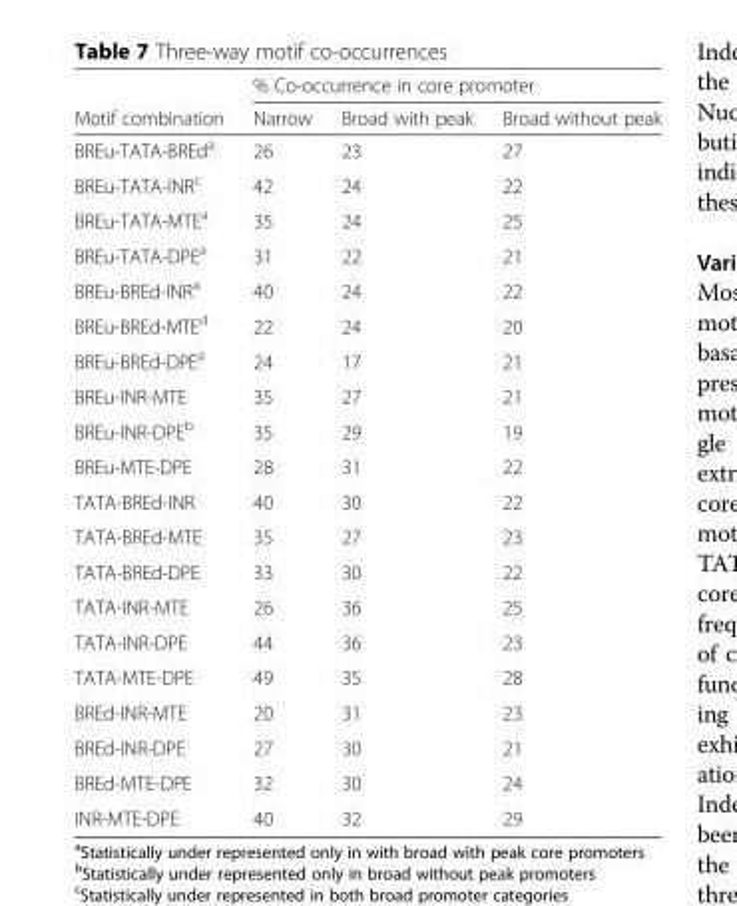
<table><thead><tr><td rowspan="2">Motif combination</td><td colspan="3">% Co-occurrence in core promoter</td></tr><tr><td>Narrow</td><td>Broad with peak</td><td>Broad without peak</td></tr></thead><tbody><tr><td>BREu-TATA-BREd<sup>a</sup></td><td>26</td><td>23</td><td>27</td></tr><tr><td>BREu-TATA-INR<sup>c</sup></td><td>42</td><td>24</td><td>22</td></tr><tr><td>BREu-TATA-MTE<sup>a</sup></td><td>35</td><td>24</td><td>25</td></tr><tr><td>BREu-TATA-DPE<sup>a</sup></td><td>31</td><td>22</td><td>21</td></tr><tr><td>BREu-BREd-INR<sup>a</sup></td><td>40</td><td>24</td><td>22</td></tr><tr><td>BREu-BREd-MTE<sup>d</sup></td><td>22</td><td>24</td><td>20</td></tr><tr><td>BREu-BREd-DPE<sup>a</sup></td><td>24</td><td>17</td><td>21</td></tr><tr><td>BREu-INR-MTE</td><td>35</td><td>27</td><td>21</td></tr><tr><td>BREu-INR-DPE<sup>b</sup></td><td>35</td><td>29</td><td>19</td></tr><tr><td>BREu-MTE-DPE</td><td>28</td><td>31</td><td>22</td></tr><tr><td>TATA-BREd-INR</td><td>40</td><td>30</td><td>22</td></tr><tr><td>TATA-BREd-MTE</td><td>35</td><td>27</td><td>23</td></tr><tr><td>TATA-BREd-DPE</td><td>33</td><td>30</td><td>22</td></tr><tr><td>TATA-INR-MTE</td><td>26</td><td>36</td><td>25</td></tr><tr><td>TATA-INR-DPE</td><td>44</td><td>36</td><td>23</td></tr><tr><td>TATA-MTE-DPE</td><td>49</td><td>35</td><td>28</td></tr><tr><td>BREd-INR-MTE</td><td>20</td><td>31</td><td>23</td></tr><tr><td>BREd-INR-DPE</td><td>27</td><td>30</td><td>21</td></tr><tr><td>BREd-MTE-DPE</td><td>32</td><td>30</td><td>24</td></tr><tr><td>INR-MTE-DPE</td><td>40</td><td>32</td><td>29</td></tr></tbody></table>